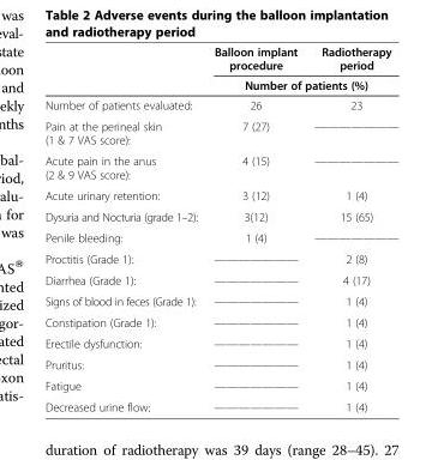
<table><thead><tr><td rowspan="2"></td><td>Balloon implant procedure</td><td>Radiotherapy period</td></tr><tr><td colspan="2">Number of patients (%)</td></tr></thead><tbody><tr><td>Number of patients evaluated:</td><td>26</td><td>23</td></tr><tr><td>Pain at the perineal skin (1 &amp; 7 VAS score):</td><td>7 (27)</td><td>———————</td></tr><tr><td>Acute pain in the anus (2 &amp; 9 VAS score):</td><td>4 (15)</td><td>———————</td></tr><tr><td>Acute urinary retention:</td><td>3 (12)</td><td>1 (4)</td></tr><tr><td>Dysuria and Nocturia (grade 1–2):</td><td>3(12)</td><td>15 (65)</td></tr><tr><td>Penile bleeding:</td><td>1 (4)</td><td>———————</td></tr><tr><td>Proctitis (Grade 1):</td><td>———————</td><td>2 (8)</td></tr><tr><td>Diarrhea (Grade 1):</td><td>———————</td><td>4 (17)</td></tr><tr><td>Signs of blood in feces (Grade 1):</td><td>———————</td><td>1 (4)</td></tr><tr><td>Constipation (Grade 1):</td><td>———————</td><td>1 (4)</td></tr><tr><td>Erectile dysfunction:</td><td>———————</td><td>1 (4)</td></tr><tr><td>Pruritus:</td><td>———————</td><td>1 (4)</td></tr><tr><td>Fatigue</td><td>———————</td><td>1 (4)</td></tr><tr><td>Decreased urine flow:</td><td>———————</td><td>1 (4)</td></tr></tbody></table>